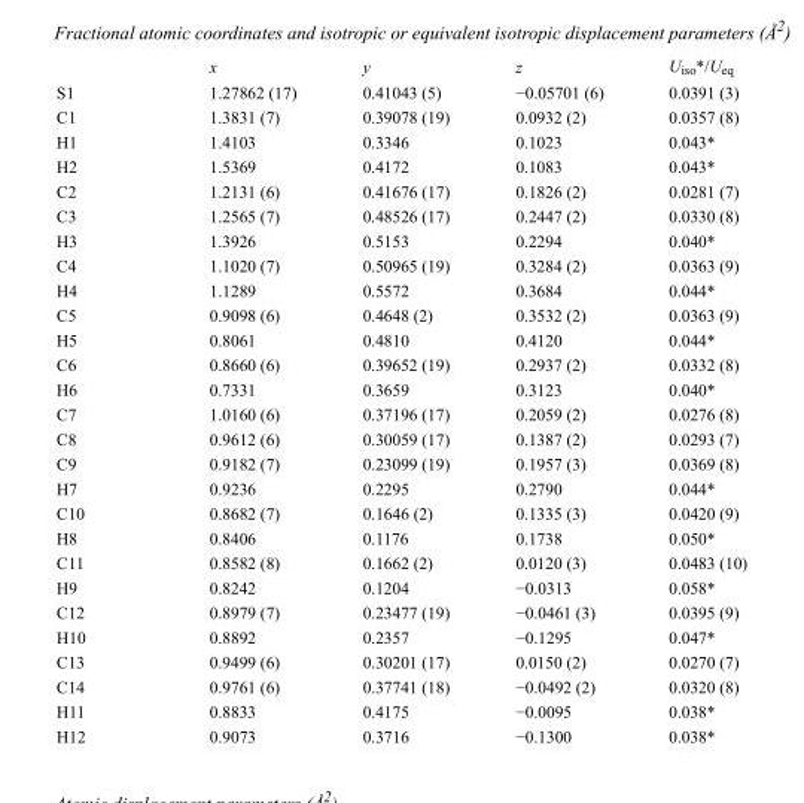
<table><thead><tr><td></td><td>x</td><td>y</td><td>z</td><td>U<sub>iso</sub>*/U<sub>eq</sub></td></tr></thead><tbody><tr><td>S1</td><td>1.27862 (17)</td><td>0.41043 (5)</td><td>−0.05701 (6)</td><td>0.0391 (3)</td></tr><tr><td>C1</td><td>1.3831 (7)</td><td>0.39078 (19)</td><td>0.0932 (2)</td><td>0.0357 (8)</td></tr><tr><td>H1</td><td>1.4103</td><td>0.3346</td><td>0.1023</td><td>0.043*</td></tr><tr><td>H2</td><td>1.5369</td><td>0.4172</td><td>0.1083</td><td>0.043*</td></tr><tr><td>C2</td><td>1.2131 (6)</td><td>0.41676 (17)</td><td>0.1826 (2)</td><td>0.0281 (7)</td></tr><tr><td>C3</td><td>1.2565 (7)</td><td>0.48526 (17)</td><td>0.2447 (2)</td><td>0.0330 (8)</td></tr><tr><td>H3</td><td>1.3926</td><td>0.5153</td><td>0.2294</td><td>0.040*</td></tr><tr><td>C4</td><td>1.1020 (7)</td><td>0.50965 (19)</td><td>0.3284 (2)</td><td>0.0363 (9)</td></tr><tr><td>H4</td><td>1.1289</td><td>0.5572</td><td>0.3684</td><td>0.044*</td></tr><tr><td>C5</td><td>0.9098 (6)</td><td>0.4648 (2)</td><td>0.3532 (2)</td><td>0.0363 (9)</td></tr><tr><td>H5</td><td>0.8061</td><td>0.4810</td><td>0.4120</td><td>0.044*</td></tr><tr><td>C6</td><td>0.8660 (6)</td><td>0.39652 (19)</td><td>0.2937 (2)</td><td>0.0332 (8)</td></tr><tr><td>H6</td><td>0.7331</td><td>0.3659</td><td>0.3123</td><td>0.040*</td></tr><tr><td>C7</td><td>1.0160 (6)</td><td>0.37196 (17)</td><td>0.2059 (2)</td><td>0.0276 (8)</td></tr><tr><td>C8</td><td>0.9612 (6)</td><td>0.30059 (17)</td><td>0.1387 (2)</td><td>0.0293 (7)</td></tr><tr><td>C9</td><td>0.9182 (7)</td><td>0.23099 (19)</td><td>0.1957 (3)</td><td>0.0369 (8)</td></tr><tr><td>H7</td><td>0.9236</td><td>0.2295</td><td>0.2790</td><td>0.044*</td></tr><tr><td>C10</td><td>0.8682 (7)</td><td>0.1646 (2)</td><td>0.1335 (3)</td><td>0.0420 (9)</td></tr><tr><td>H8</td><td>0.8406</td><td>0.1176</td><td>0.1738</td><td>0.050*</td></tr><tr><td>C11</td><td>0.8582 (8)</td><td>0.1662 (2)</td><td>0.0120 (3)</td><td>0.0483 (10)</td></tr><tr><td>H9</td><td>0.8242</td><td>0.1204</td><td>−0.0313</td><td>0.058*</td></tr><tr><td>C12</td><td>0.8979 (7)</td><td>0.23477 (19)</td><td>−0.0461 (3)</td><td>0.0395 (9)</td></tr><tr><td>H10</td><td>0.8892</td><td>0.2357</td><td>−0.1295</td><td>0.047*</td></tr><tr><td>C13</td><td>0.9499 (6)</td><td>0.30201 (17)</td><td>0.0150 (2)</td><td>0.0270 (7)</td></tr><tr><td>C14</td><td>0.9761 (6)</td><td>0.37741 (18)</td><td>−0.0492 (2)</td><td>0.0320 (8)</td></tr><tr><td>H11</td><td>0.8833</td><td>0.4175</td><td>−0.0095</td><td>0.038*</td></tr><tr><td>H12</td><td>0.9073</td><td>0.3716</td><td>−0.1300</td><td>0.038*</td></tr></tbody></table>